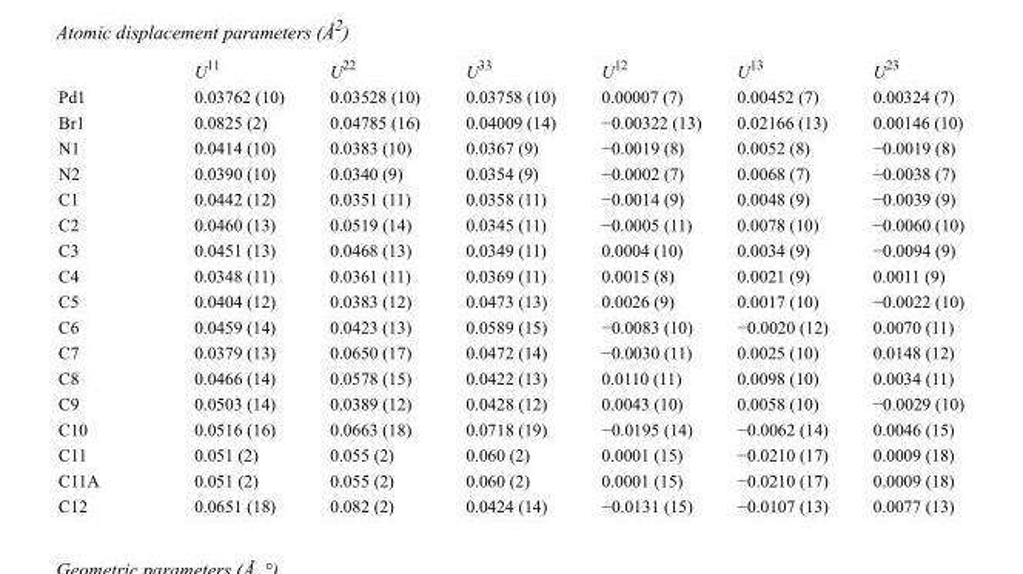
<table><thead><tr><td></td><td>U<sup>11</sup></td><td>U<sup>22</sup></td><td>U<sup>33</sup></td><td>U<sup>12</sup></td><td>U<sup>13</sup></td><td>U<sup>23</sup></td></tr></thead><tbody><tr><td>Pd1</td><td>0.03762 (10)</td><td>0.03528 (10)</td><td>0.03758 (10)</td><td>0.00007 (7)</td><td>0.00452 (7)</td><td>0.00324 (7)</td></tr><tr><td>Br1</td><td>0.0825 (2)</td><td>0.04785 (16)</td><td>0.04009 (14)</td><td>−0.00322 (13)</td><td>0.02166 (13)</td><td>0.00146 (10)</td></tr><tr><td>N1</td><td>0.0414 (10)</td><td>0.0383 (10)</td><td>0.0367 (9)</td><td>−0.0019 (8)</td><td>0.0052 (8)</td><td>−0.0019 (8)</td></tr><tr><td>N2</td><td>0.0390 (10)</td><td>0.0340 (9)</td><td>0.0354 (9)</td><td>−0.0002 (7)</td><td>0.0068 (7)</td><td>−0.0038 (7)</td></tr><tr><td>C1</td><td>0.0442 (12)</td><td>0.0351 (11)</td><td>0.0358 (11)</td><td>−0.0014 (9)</td><td>0.0048 (9)</td><td>−0.0039 (9)</td></tr><tr><td>C2</td><td>0.0460 (13)</td><td>0.0519 (14)</td><td>0.0345 (11)</td><td>−0.0005 (11)</td><td>0.0078 (10)</td><td>−0.0060 (10)</td></tr><tr><td>C3</td><td>0.0451 (13)</td><td>0.0468 (13)</td><td>0.0349 (11)</td><td>0.0004 (10)</td><td>0.0034 (9)</td><td>−0.0094 (9)</td></tr><tr><td>C4</td><td>0.0348 (11)</td><td>0.0361 (11)</td><td>0.0369 (11)</td><td>0.0015 (8)</td><td>0.0021 (9)</td><td>0.0011 (9)</td></tr><tr><td>C5</td><td>0.0404 (12)</td><td>0.0383 (12)</td><td>0.0473 (13)</td><td>0.0026 (9)</td><td>0.0017 (10)</td><td>−0.0022 (10)</td></tr><tr><td>C6</td><td>0.0459 (14)</td><td>0.0423 (13)</td><td>0.0589 (15)</td><td>−0.0083 (10)</td><td>−0.0020 (12)</td><td>0.0070 (11)</td></tr><tr><td>C7</td><td>0.0379 (13)</td><td>0.0650 (17)</td><td>0.0472 (14)</td><td>−0.0030 (11)</td><td>0.0025 (10)</td><td>0.0148 (12)</td></tr><tr><td>C8</td><td>0.0466 (14)</td><td>0.0578 (15)</td><td>0.0422 (13)</td><td>0.0110 (11)</td><td>0.0098 (10)</td><td>0.0034 (11)</td></tr><tr><td>C9</td><td>0.0503 (14)</td><td>0.0389 (12)</td><td>0.0428 (12)</td><td>0.0043 (10)</td><td>0.0058 (10)</td><td>−0.0029 (10)</td></tr><tr><td>C10</td><td>0.0516 (16)</td><td>0.0663 (18)</td><td>0.0718 (19)</td><td>−0.0195 (14)</td><td>−0.0062 (14)</td><td>0.0046 (15)</td></tr><tr><td>C11</td><td>0.051 (2)</td><td>0.055 (2)</td><td>0.060 (2)</td><td>0.0001 (15)</td><td>−0.0210 (17)</td><td>0.0009 (18)</td></tr><tr><td>C11A</td><td>0.051 (2)</td><td>0.055 (2)</td><td>0.060 (2)</td><td>0.0001 (15)</td><td>−0.0210 (17)</td><td>0.0009 (18)</td></tr><tr><td>C12</td><td>0.0651 (18)</td><td>0.082 (2)</td><td>0.0424 (14)</td><td>−0.0131 (15)</td><td>−0.0107 (13)</td><td>0.0077 (13)</td></tr></tbody></table>